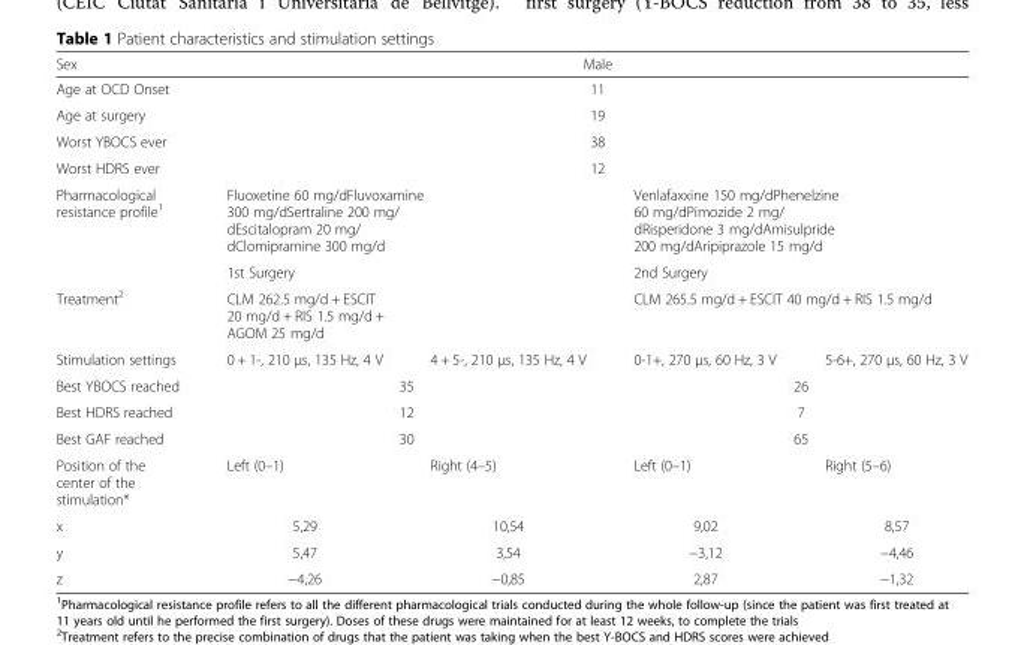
<table><thead><tr><td>Sex</td><td colspan="4">Male</td></tr></thead><tbody><tr><td>Age at OCD Onset</td><td colspan="4">11</td></tr><tr><td>Age at surgery</td><td colspan="4">19</td></tr><tr><td>Worst YBOCS ever</td><td colspan="4">38</td></tr><tr><td>Worst HDRS ever</td><td colspan="4">12</td></tr><tr><td rowspan="2">Pharmacological resistance profile<sup>1</sup></td><td colspan="2">Fluoxetine 60 mg/dFluvoxamine 300 mg/dSertraline 200 mg/ dEscitalopram 20 mg/ dClomipramine 300 mg/d</td><td colspan="2">Venlafaxxine 150 mg/dPhenelzine 60 mg/dPimozide 2 mg/ dRisperidone 3 mg/dAmisulpride 200 mg/dAripiprazole 15 mg/d</td></tr><tr><td colspan="2">1st Surgery</td><td colspan="2">2nd Surgery</td></tr><tr><td>Treatment<sup>2</sup></td><td colspan="2">CLM 262.5 mg/d + ESCIT 20 mg/d + RIS 1.5 mg/d + AGOM 25 mg/d</td><td colspan="2">CLM 265.5 mg/d + ESCIT 40 mg/d + RIS 1.5 mg/d</td></tr><tr><td>Stimulation settings</td><td>0 + 1-, 210 μs, 135 Hz, 4 V</td><td>4 + 5-, 210 μs, 135 Hz, 4 V</td><td>0-1+, 270 μs, 60 Hz, 3 V</td><td>5-6+, 270 μs, 60 Hz, 3 V</td></tr><tr><td>Best YBOCS reached</td><td colspan="2">35</td><td colspan="2">26</td></tr><tr><td>Best HDRS reached</td><td colspan="2">12</td><td colspan="2">7</td></tr><tr><td>Best GAF reached</td><td colspan="2">30</td><td colspan="2">65</td></tr><tr><td>Position of the center of the stimulation*</td><td>Left (0–1)</td><td>Right (4–5)</td><td>Left (0–1)</td><td>Right (5–6)</td></tr><tr><td>x</td><td>5,29</td><td>10,54</td><td>9,02</td><td>8,57</td></tr><tr><td>y</td><td>5,47</td><td>3,54</td><td>−3,12</td><td>−4,46</td></tr><tr><td>z</td><td>−4,26</td><td>−0,85</td><td>2,87</td><td>−1,32</td></tr></tbody></table>